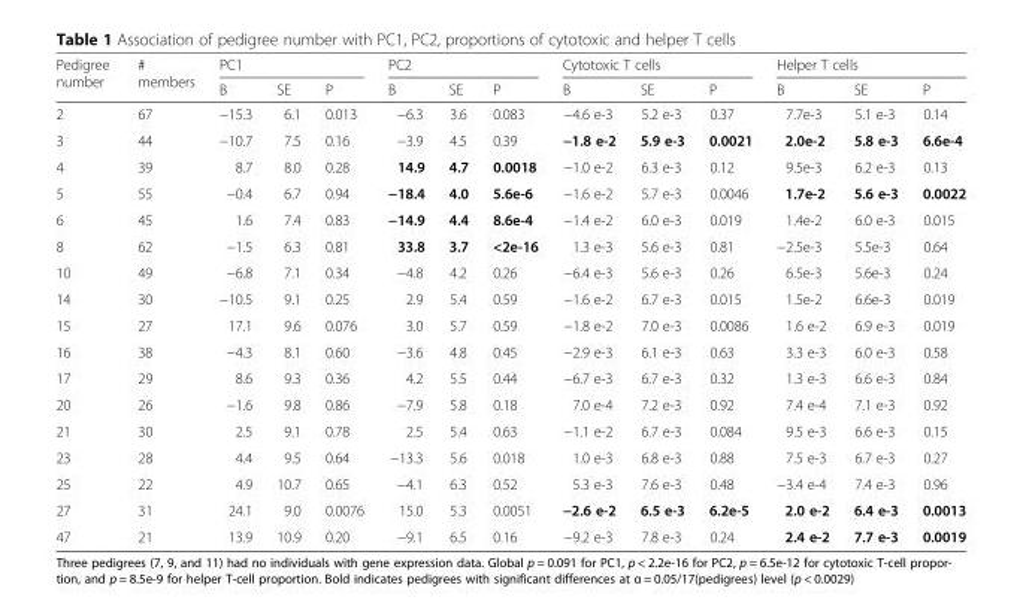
<table><thead><tr><td rowspan="2">Pedigree number</td><td rowspan="2"># members</td><td colspan="3">PC1</td><td colspan="3">PC2</td><td colspan="3">Cytotoxic T cells</td><td colspan="3">Helper T cells</td></tr><tr><td>B</td><td>SE</td><td>P</td><td>B</td><td>SE</td><td>P</td><td>B</td><td>SE</td><td>P</td><td>B</td><td>SE</td><td>P</td></tr></thead><tbody><tr><td>2</td><td>67</td><td>−15.3</td><td>6.1</td><td>0.013</td><td>−6.3</td><td>3.6</td><td>0.083</td><td>−4.6 e-3</td><td>5.2 e-3</td><td>0.37</td><td>7.7e-3</td><td>5.1 e-3</td><td>0.14</td></tr><tr><td>3</td><td>44</td><td>−10.7</td><td>7.5</td><td>0.16</td><td>−3.9</td><td>4.5</td><td>0.39</td><td>−1.8 e-2</td><td>5.9 e-3</td><td>0.0021</td><td>2.0e-2</td><td>5.8 e-3</td><td>6.6e-4</td></tr><tr><td>4</td><td>39</td><td>8.7</td><td>8.0</td><td>0.28</td><td>14.9</td><td>4.7</td><td>0.0018</td><td>−1.0 e-2</td><td>6.3 e-3</td><td>0.12</td><td>9.5e-3</td><td>6.2 e-3</td><td>0.13</td></tr><tr><td>5</td><td>55</td><td>−0.4</td><td>6.7</td><td>0.94</td><td>−18.4</td><td>4.0</td><td>5.6e-6</td><td>−1.6 e-2</td><td>5.7 e-3</td><td>0.0046</td><td>1.7e-2</td><td>5.6 e-3</td><td>0.0022</td></tr><tr><td>6</td><td>45</td><td>1.6</td><td>7.4</td><td>0.83</td><td>−14.9</td><td>4.4</td><td>8.6e-4</td><td>−1.4 e-2</td><td>6.0 e-3</td><td>0.019</td><td>1.4e-2</td><td>6.0 e-3</td><td>0.015</td></tr><tr><td>8</td><td>62</td><td>−1.5</td><td>6.3</td><td>0.81</td><td>33.8</td><td>3.7</td><td>&lt;2e-16</td><td>1.3 e-3</td><td>5.6 e-3</td><td>0.81</td><td>−2.5e-3</td><td>5.5e-3</td><td>0.64</td></tr><tr><td>10</td><td>49</td><td>−6.8</td><td>7.1</td><td>0.34</td><td>−4.8</td><td>4.2</td><td>0.26</td><td>−6.4 e-3</td><td>5.6 e-3</td><td>0.26</td><td>6.5e-3</td><td>5.6e-3</td><td>0.24</td></tr><tr><td>14</td><td>30</td><td>−10.5</td><td>9.1</td><td>0.25</td><td>2.9</td><td>5.4</td><td>0.59</td><td>−1.6 e-2</td><td>6.7 e-3</td><td>0.015</td><td>1.5e-2</td><td>6.6e-3</td><td>0.019</td></tr><tr><td>15</td><td>27</td><td>17.1</td><td>9.6</td><td>0.076</td><td>3.0</td><td>5.7</td><td>0.59</td><td>−1.8 e-2</td><td>7.0 e-3</td><td>0.0086</td><td>1.6 e-2</td><td>6.9 e-3</td><td>0.019</td></tr><tr><td>16</td><td>38</td><td>−4.3</td><td>8.1</td><td>0.60</td><td>−3.6</td><td>4.8</td><td>0.45</td><td>−2.9 e-3</td><td>6.1 e-3</td><td>0.63</td><td>3.3 e-3</td><td>6.0 e-3</td><td>0.58</td></tr><tr><td>17</td><td>29</td><td>8.6</td><td>9.3</td><td>0.36</td><td>4.2</td><td>5.5</td><td>0.44</td><td>−6.7 e-3</td><td>6.7 e-3</td><td>0.32</td><td>1.3 e-3</td><td>6.6 e-3</td><td>0.84</td></tr><tr><td>20</td><td>26</td><td>−1.6</td><td>9.8</td><td>0.86</td><td>−7.9</td><td>5.8</td><td>0.18</td><td>7.0 e-4</td><td>7.2 e-3</td><td>0.92</td><td>7.4 e-4</td><td>7.1 e-3</td><td>0.92</td></tr><tr><td>21</td><td>30</td><td>2.5</td><td>9.1</td><td>0.78</td><td>2.5</td><td>5.4</td><td>0.63</td><td>−1.1 e-2</td><td>6.7 e-3</td><td>0.084</td><td>9.5 e-3</td><td>6.6 e-3</td><td>0.15</td></tr><tr><td>23</td><td>28</td><td>4.4</td><td>9.5</td><td>0.64</td><td>−13.3</td><td>5.6</td><td>0.018</td><td>1.0 e-3</td><td>6.8 e-3</td><td>0.88</td><td>7.5 e-3</td><td>6.7 e-3</td><td>0.27</td></tr><tr><td>25</td><td>22</td><td>4.9</td><td>10.7</td><td>0.65</td><td>−4.1</td><td>6.3</td><td>0.52</td><td>5.3 e-3</td><td>7.6 e-3</td><td>0.48</td><td>−3.4 e-4</td><td>7.4 e-3</td><td>0.96</td></tr><tr><td>27</td><td>31</td><td>24.1</td><td>9.0</td><td>0.0076</td><td>15.0</td><td>5.3</td><td>0.0051</td><td>−2.6 e-2</td><td>6.5 e-3</td><td>6.2e-5</td><td>2.0 e-2</td><td>6.4 e-3</td><td>0.0013</td></tr><tr><td>47</td><td>21</td><td>13.9</td><td>10.9</td><td>0.20</td><td>−9.1</td><td>6.5</td><td>0.16</td><td>−9.2 e-3</td><td>7.8 e-3</td><td>0.24</td><td>2.4 e-2</td><td>7.7 e-3</td><td>0.0019</td></tr></tbody></table>